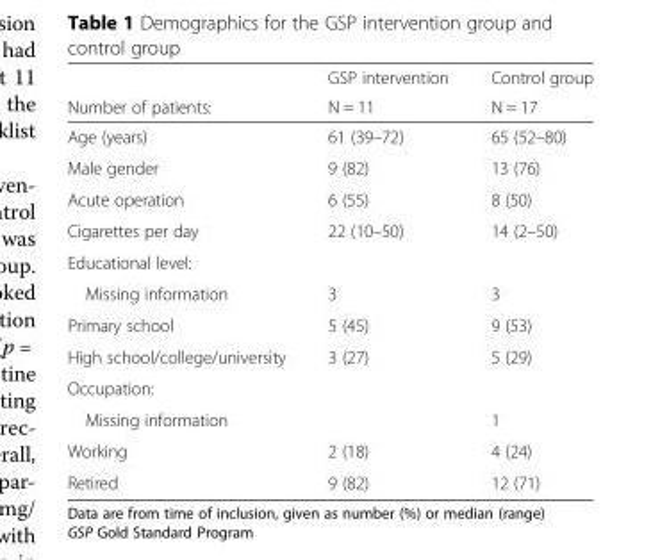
<table><thead><tr><td rowspan="2">Number of patients:</td><td rowspan="2">GSP intervention N = 11</td><td rowspan="2">Control group N = 17</td></tr><tr></tr></thead><tbody><tr><td>Age (years)</td><td>61 (39–72)</td><td>65 (52–80)</td></tr><tr><td>Male gender</td><td>9 (82)</td><td>13 (76)</td></tr><tr><td>Acute operation</td><td>6 (55)</td><td>8 (50)</td></tr><tr><td>Cigarettes per day</td><td>22 (10–50)</td><td>14 (2–50)</td></tr><tr><td colspan="3">Educational level:</td></tr><tr><td>Missing information</td><td>3</td><td>3</td></tr><tr><td>Primary school</td><td>5 (45)</td><td>9 (53)</td></tr><tr><td>High school/college/university</td><td>3 (27)</td><td>5 (29)</td></tr><tr><td colspan="3">Occupation:</td></tr><tr><td>Missing information</td><td></td><td>1</td></tr><tr><td>Working</td><td>2 (18)</td><td>4 (24)</td></tr><tr><td>Retired</td><td>9 (82)</td><td>12 (71)</td></tr></tbody></table>